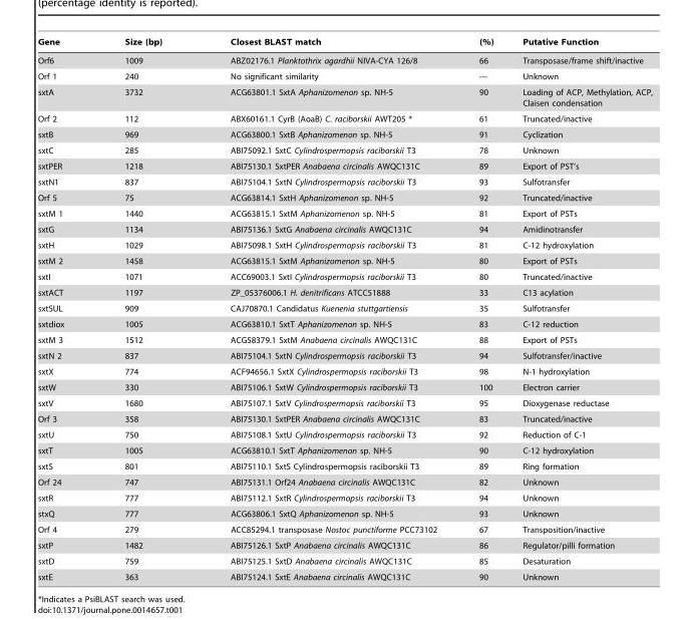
<table><thead><tr><td rowspan="2">Gene Orf6</td><td rowspan="2">Size (bp) 1009</td><td colspan="2">Closest BLAST match (%)</td><td rowspan="2">Putative Function Transposase/frame shift/inactive</td></tr><tr><td>ABZ02176.1 Planktothrix agardhii NIVA-CYA 126/8</td><td>66</td></tr></thead><tbody><tr><td>Orf 1</td><td>240</td><td>No significant similarity</td><td>---</td><td>Unknown</td></tr><tr><td>sxtA</td><td>3732</td><td>ACG63801.1 SxtA Aphanizomenon sp. NH-5</td><td>90</td><td>Loading of ACP, Methylation, ACP, Claisen condensation</td></tr><tr><td>Orf 2</td><td>112</td><td>ABX60161.1 CyrB (AoaB) C. raciborskii AWT205 *</td><td>61</td><td>Truncated/inactive</td></tr><tr><td>sxtB</td><td>969</td><td>ACG63800.1 SxtB Aphanizomenon sp. NH-5</td><td>91</td><td>Cyclization</td></tr><tr><td>sxtC</td><td>285</td><td>ABI75092.1 SxtC Cylindrospermopsis raciborskii T3</td><td>78</td><td>Unknown</td></tr><tr><td>sxtPER</td><td>1218</td><td>ABI75130.1 SxtPER Anabaena circinalis AWQC131C</td><td>89</td><td>Export of PST’s</td></tr><tr><td>sxtN1</td><td>837</td><td>ABI75104.1 SxtN Cylindrospermopsis raciborskii T3</td><td>93</td><td>Sulfotransfer</td></tr><tr><td>Orf 5</td><td>75</td><td>ACG63814.1 SxtH Aphanizomenon sp. NH-5</td><td>92</td><td>Truncated/inactive</td></tr><tr><td>sxtM 1</td><td>1440</td><td>ACG63815.1 SxtM Aphanizomenon sp. NH-5</td><td>81</td><td>Export of PSTs</td></tr><tr><td>sxtG</td><td>1134</td><td>ABI75136.1 SxtG Anabaena circinalis AWQC131C</td><td>94</td><td>Amidinotransfer</td></tr><tr><td>sxtH</td><td>1029</td><td>ABI75098.1 SxtH Cylindrospermopsis raciborskii T3</td><td>81</td><td>C-12 hydroxylation</td></tr><tr><td>sxtM 2</td><td>1458</td><td>ACG63815.1 SxtM Aphanizomenon sp. NH-5</td><td>80</td><td>Export of PSTs</td></tr><tr><td>sxtI</td><td>1071</td><td>ACC69003.1 SxtI Cylindrospermopsis raciborskii T3</td><td>80</td><td>Truncated/inactive</td></tr><tr><td>sxtACT</td><td>1197</td><td>ZP_05376006.1 H. denitrificans ATCC51888</td><td>33</td><td>C13 acylation</td></tr><tr><td>sxtSUL</td><td>909</td><td>CAJ70870.1 Candidatus Kuenenia stuttgartiensis</td><td>35</td><td>Sulfotransfer</td></tr><tr><td>sxtdiox</td><td>1005</td><td>ACG63810.1 SxtT Aphanizomenon sp. NH-5</td><td>83</td><td>C-12 reduction</td></tr><tr><td>sxtM 3</td><td>1512</td><td>ACG58379.1 SxtM Anabaena circinalis AWQC131C</td><td>88</td><td>Export of PSTs</td></tr><tr><td>sxtN 2</td><td>837</td><td>ABI75104.1 SxtN Cylindrospermopsis raciborskii T3</td><td>94</td><td>Sulfotransfer/inactive</td></tr><tr><td>sxtX</td><td>774</td><td>ACF94656.1 SxtX Cylindrospermopsis raciborskii T3</td><td>98</td><td>N-1 hydroxylation</td></tr><tr><td>sxtW</td><td>330</td><td>ABI75106.1 SxtW Cylindrospermopsis raciborskii T3</td><td>100</td><td>Electron carrier</td></tr><tr><td>sxtV</td><td>1680</td><td>ABI75107.1 SxtV Cylindrospermopsis raciborskii T3</td><td>95</td><td>Dioxygenase reductase</td></tr><tr><td>Orf 3</td><td>358</td><td>ABI75130.1 SxtPER Anabaena circinalis AWQC131C</td><td>83</td><td>Truncated/inactive</td></tr><tr><td>sxtU</td><td>750</td><td>ABI75108.1 SxtU Cylindrospermopsis raciborskii T3</td><td>92</td><td>Reduction of C-1</td></tr><tr><td>sxtT</td><td>1005</td><td>ACG63810.1 SxtT Aphanizomenon sp. NH-5</td><td>90</td><td>C-12 hydroxylation</td></tr><tr><td>sxtS</td><td>801</td><td>ABI75110.1 SxtS Cylindrospermopsis raciborskii T3</td><td>89</td><td>Ring formation</td></tr><tr><td>Orf 24</td><td>747</td><td>ABI75131.1 Orf24 Anabaena circinalis AWQC131C</td><td>82</td><td>Unknown</td></tr><tr><td>sxtR</td><td>777</td><td>ABI75112.1 SxtR Cylindrospermopsis raciborskii T3</td><td>94</td><td>Unknown</td></tr><tr><td>stxQ</td><td>777</td><td>ACG63806.1 SxtQ Aphanizomenon sp. NH-5</td><td>93</td><td>Unknown</td></tr><tr><td>Orf 4</td><td>279</td><td>ACC85294.1 transposase Nostoc punctiforme PCC73102</td><td>67</td><td>Transposition/inactive</td></tr><tr><td>sxtP</td><td>1482</td><td>ABI75126.1 SxtP Anabaena circinalis AWQC131C</td><td>86</td><td>Regulator/pilli formation</td></tr><tr><td>sxtD</td><td>759</td><td>ABI75125.1 SxtD Anabaena circinalis AWQC131C</td><td>85</td><td>Desaturation</td></tr><tr><td>sxtE</td><td>363</td><td>ABI75124.1 SxtE Anabaena circinalis AWQC131C</td><td>90</td><td>Unknown</td></tr></tbody></table>